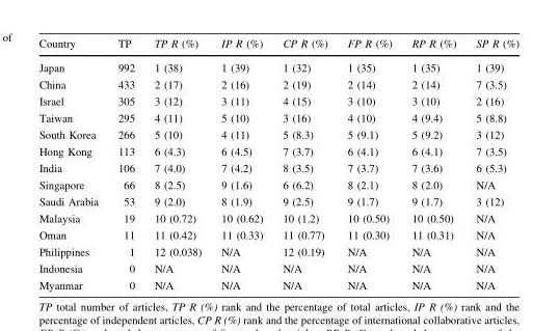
<table><thead><tr><td>Country</td><td>TP</td><td>TP R (%)</td><td>IP R (%)</td><td>CP R (%)</td><td>FP R (%)</td><td>RP R (%)</td><td>SP R (%)</td></tr></thead><tbody><tr><td>Japan</td><td>992</td><td>1 (38)</td><td>1 (39)</td><td>1 (32)</td><td>1 (35)</td><td>1 (35)</td><td>1 (39)</td></tr><tr><td>China</td><td>433</td><td>2 (17)</td><td>2 (16)</td><td>2 (19)</td><td>2 (14)</td><td>2 (14)</td><td>7 (3.5)</td></tr><tr><td>Israel</td><td>305</td><td>3 (12)</td><td>3 (11)</td><td>4 (15)</td><td>3 (10)</td><td>3 (10)</td><td>2 (16)</td></tr><tr><td>Taiwan</td><td>295</td><td>4 (11)</td><td>5 (10)</td><td>3 (16)</td><td>4 (10)</td><td>4 (9.4)</td><td>5 (8.8)</td></tr><tr><td>South Korea</td><td>266</td><td>5 (10)</td><td>4 (11)</td><td>5 (8.3)</td><td>5 (9.1)</td><td>5 (9.2)</td><td>3 (12)</td></tr><tr><td>Hong Kong</td><td>113</td><td>6 (4.3)</td><td>6 (4.5)</td><td>7 (3.7)</td><td>6 (4.1)</td><td>6 (4.1)</td><td>7 (3.5)</td></tr><tr><td>India</td><td>106</td><td>7 (4.0)</td><td>7 (4.2)</td><td>8 (3.5)</td><td>7 (3.7)</td><td>7 (3.6)</td><td>6 (5.3)</td></tr><tr><td>Singapore</td><td>66</td><td>8 (2.5)</td><td>9 (1.6)</td><td>6 (6.2)</td><td>8 (2.1)</td><td>8 (2.0)</td><td>N/A</td></tr><tr><td>Saudi Arabia</td><td>53</td><td>9 (2.0)</td><td>8 (1.9)</td><td>9 (2.5)</td><td>9 (1.7)</td><td>9 (1.7)</td><td>3 (12)</td></tr><tr><td>Malaysia</td><td>19</td><td>10 (0.72)</td><td>10 (0.62)</td><td>10 (1.2)</td><td>10 (0.50)</td><td>10 (0.50)</td><td>N/A</td></tr><tr><td>Oman</td><td>11</td><td>11 (0.42)</td><td>11 (0.33)</td><td>11 (0.77)</td><td>11 (0.30)</td><td>11 (0.31)</td><td>N/A</td></tr><tr><td>Philippines</td><td>1</td><td>12 (0.038)</td><td>N/A</td><td>12 (0.19)</td><td>N/A</td><td>N/A</td><td>N/A</td></tr><tr><td>Indonesia</td><td>0</td><td>N/A</td><td>N/A</td><td>N/A</td><td>N/A</td><td>N/A</td><td>N/A</td></tr><tr><td>Myanmar</td><td>0</td><td>N/A</td><td>N/A</td><td>N/A</td><td>N/A</td><td>N/A</td><td>N/A</td></tr></tbody></table>